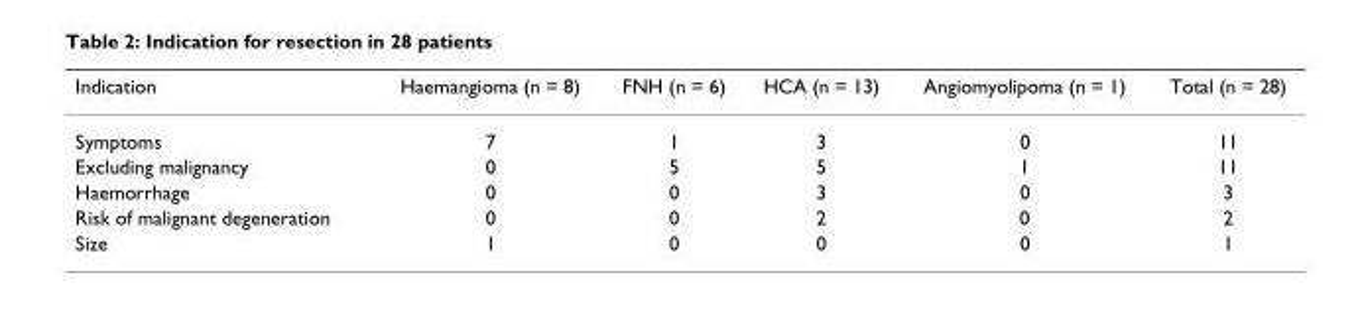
<table><thead><tr><td>Indication</td><td>Haemangioma (n = 8)</td><td>FNH (n = 6)</td><td>HCA (n = 13)</td><td>Angiomyolipoma (n = 1)</td><td>Total (n = 28)</td></tr></thead><tbody><tr><td>Symptoms</td><td>7</td><td>1</td><td>3</td><td>0</td><td>11</td></tr><tr><td>Excluding malignancy</td><td>0</td><td>5</td><td>5</td><td>1</td><td>11</td></tr><tr><td>Haemorrhage</td><td>0</td><td>0</td><td>3</td><td>0</td><td>3</td></tr><tr><td>Risk of malignant degeneration</td><td>0</td><td>0</td><td>2</td><td>0</td><td>2</td></tr><tr><td>Size</td><td>1</td><td>0</td><td>0</td><td>0</td><td>1</td></tr></tbody></table>